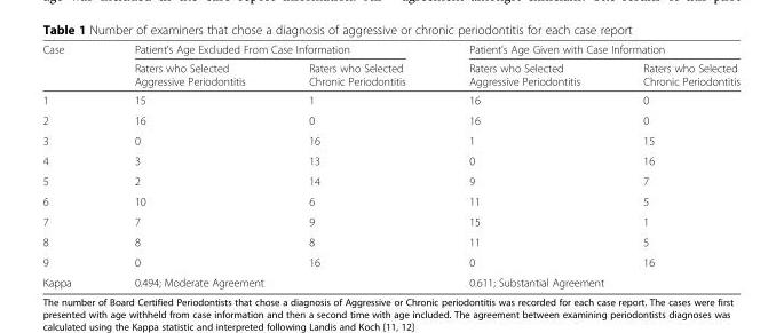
<table><thead><tr><td rowspan="2">Case</td><td colspan="2">Patient’s Age Excluded From Case Information</td><td colspan="2">Patient’s Age Given with Case Information</td></tr><tr><td>Raters who Selected Aggressive Periodontitis</td><td>Raters who Selected Chronic Periodontitis</td><td>Raters who Selected Aggressive Periodontitis</td><td>Raters who Selected Chronic Periodontitis</td></tr></thead><tbody><tr><td>1</td><td>15</td><td>1</td><td>16</td><td>0</td></tr><tr><td>2</td><td>16</td><td>0</td><td>16</td><td>0</td></tr><tr><td>3</td><td>0</td><td>16</td><td>1</td><td>15</td></tr><tr><td>4</td><td>3</td><td>13</td><td>0</td><td>16</td></tr><tr><td>5</td><td>2</td><td>14</td><td>9</td><td>7</td></tr><tr><td>6</td><td>10</td><td>6</td><td>11</td><td>5</td></tr><tr><td>7</td><td>7</td><td>9</td><td>15</td><td>1</td></tr><tr><td>8</td><td>8</td><td>8</td><td>11</td><td>5</td></tr><tr><td>9</td><td>0</td><td>16</td><td>0</td><td>16</td></tr><tr><td>Kappa</td><td colspan="2">0.494; Moderate Agreement</td><td colspan="2">0.611; Substantial Agreement</td></tr></tbody></table>